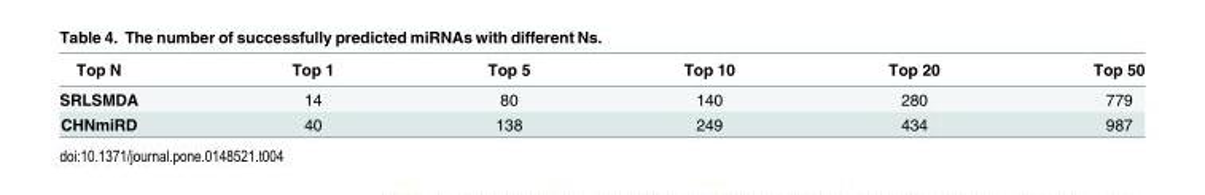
<table><thead><tr><td>Top N</td><td>Top 1</td><td>Top 5</td><td>Top 10</td><td>Top 20</td><td>Top 50</td></tr></thead><tbody><tr><td>SRLSMDA</td><td>14</td><td>80</td><td>140</td><td>280</td><td>779</td></tr><tr><td>CHNmiRD</td><td>40</td><td>138</td><td>249</td><td>434</td><td>987</td></tr></tbody></table>